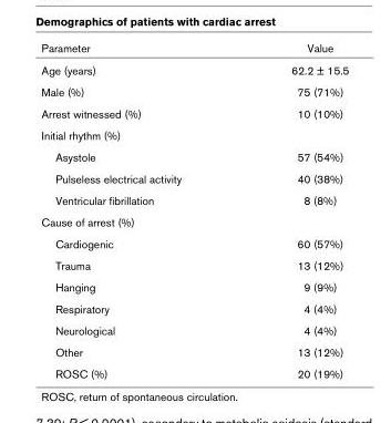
<table><thead><tr><td>Parameter</td><td>Value</td></tr></thead><tbody><tr><td>Age (years)</td><td>62.2 ± 15.5</td></tr><tr><td>Male (%)</td><td>75 (71%)</td></tr><tr><td>Arrest witnessed (%)</td><td>10 (10%)</td></tr><tr><td colspan="2">Initial rhythm (%)</td></tr><tr><td>Asystole</td><td>57 (54%)</td></tr><tr><td>Pulseless electrical activity</td><td>40 (38%)</td></tr><tr><td>Ventricular fibrillation</td><td>8 (8%)</td></tr><tr><td colspan="2">Cause of arrest (%)</td></tr><tr><td>Cardiogenic</td><td>60 (57%)</td></tr><tr><td>Trauma</td><td>13 (12%)</td></tr><tr><td>Hanging</td><td>9 (9%)</td></tr><tr><td>Respiratory</td><td>4 (4%)</td></tr><tr><td>Neurological</td><td>4 (4%)</td></tr><tr><td>Other</td><td>13 (12%)</td></tr><tr><td>ROSC (%)</td><td>20 (19%)</td></tr></tbody></table>